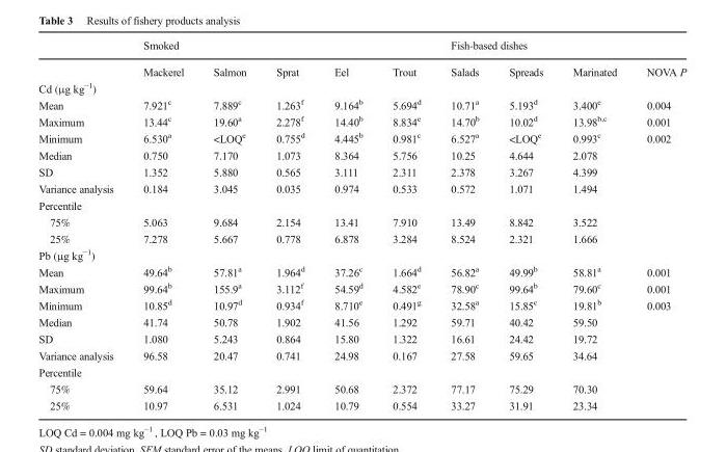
<table><thead><tr><td rowspan="2"></td><td colspan="5">Smoked</td><td colspan="3">Fish-based dishes</td><td rowspan="2">NOVA P</td></tr><tr><td>Mackerel</td><td>Salmon</td><td>Sprat</td><td>Eel</td><td>Trout</td><td>Salads</td><td>Spreads</td><td>Marinated</td></tr></thead><tbody><tr><td colspan="10">Cd (μg kg<sup>−1</sup>)</td></tr><tr><td>Mean</td><td>7.921<sup>c</sup></td><td>7.889<sup>c</sup></td><td>1.263<sup>f</sup></td><td>9.164<sup>b</sup></td><td>5.694<sup>d</sup></td><td>10.71<sup>a</sup></td><td>5.193<sup>d</sup></td><td>3.400<sup>e</sup></td><td>0.004</td></tr><tr><td>Maximum</td><td>13.44<sup>c</sup></td><td>19.60<sup>a</sup></td><td>2.278<sup>f</sup></td><td>14.40<sup>b</sup></td><td>8.834<sup>e</sup></td><td>14.70<sup>b</sup></td><td>10.02<sup>d</sup></td><td>13.98<sup>b,c</sup></td><td>0.001</td></tr><tr><td>Minimum</td><td>6.530<sup>a</sup></td><td>&lt;LOQ<sup>e</sup></td><td>0.755<sup>d</sup></td><td>4.445<sup>b</sup></td><td>0.981<sup>c</sup></td><td>6.527<sup>a</sup></td><td>&lt;LOQ<sup>e</sup></td><td>0.993<sup>c</sup></td><td>0.002</td></tr><tr><td>Median</td><td>0.750</td><td>7.170</td><td>1.073</td><td>8.364</td><td>5.756</td><td>10.25</td><td>4.644</td><td>2.078</td><td></td></tr><tr><td>SD</td><td>1.352</td><td>5.880</td><td>0.565</td><td>3.111</td><td>2.311</td><td>2.378</td><td>3.267</td><td>4.399</td><td></td></tr><tr><td>Variance analysis</td><td>0.184</td><td>3.045</td><td>0.035</td><td>0.974</td><td>0.533</td><td>0.572</td><td>1.071</td><td>1.494</td><td></td></tr><tr><td colspan="10">Percentile</td></tr><tr><td>75%</td><td>5.063</td><td>9.684</td><td>2.154</td><td>13.41</td><td>7.910</td><td>13.49</td><td>8.842</td><td>3.522</td><td></td></tr><tr><td>25%</td><td>7.278</td><td>5.667</td><td>0.778</td><td>6.878</td><td>3.284</td><td>8.524</td><td>2.321</td><td>1.666</td><td></td></tr><tr><td colspan="10">Pb (μg kg<sup>−1</sup>)</td></tr><tr><td>Mean</td><td>49.64<sup>b</sup></td><td>57.81<sup>a</sup></td><td>1.964<sup>d</sup></td><td>37.26<sup>c</sup></td><td>1.664<sup>d</sup></td><td>56.82<sup>a</sup></td><td>49.99<sup>b</sup></td><td>58.81<sup>a</sup></td><td>0.001</td></tr><tr><td>Maximum</td><td>99.64<sup>b</sup></td><td>155.9<sup>a</sup></td><td>3.112<sup>f</sup></td><td>54.59<sup>d</sup></td><td>4.582<sup>e</sup></td><td>78.90<sup>c</sup></td><td>99.64<sup>b</sup></td><td>79.60<sup>c</sup></td><td>0.001</td></tr><tr><td>Minimum</td><td>10.85<sup>d</sup></td><td>10.97<sup>d</sup></td><td>0.934<sup>f</sup></td><td>8.710<sup>e</sup></td><td>0.491<sup>g</sup></td><td>32.58<sup>a</sup></td><td>15.85<sup>c</sup></td><td>19.81<sup>b</sup></td><td>0.003</td></tr><tr><td>Median</td><td>41.74</td><td>50.78</td><td>1.902</td><td>41.56</td><td>1.292</td><td>59.71</td><td>40.42</td><td>59.50</td><td></td></tr><tr><td>SD</td><td>1.080</td><td>5.243</td><td>0.864</td><td>15.80</td><td>1.322</td><td>16.61</td><td>24.42</td><td>19.72</td><td></td></tr><tr><td>Variance analysis</td><td>96.58</td><td>20.47</td><td>0.741</td><td>24.98</td><td>0.167</td><td>27.58</td><td>59.65</td><td>34.64</td><td></td></tr><tr><td colspan="10">Percentile</td></tr><tr><td>75%</td><td>59.64</td><td>35.12</td><td>2.991</td><td>50.68</td><td>2.372</td><td>77.17</td><td>75.29</td><td>70.30</td><td></td></tr><tr><td>25%</td><td>10.97</td><td>6.531</td><td>1.024</td><td>10.79</td><td>0.554</td><td>33.27</td><td>31.91</td><td>23.34</td><td></td></tr></tbody></table>